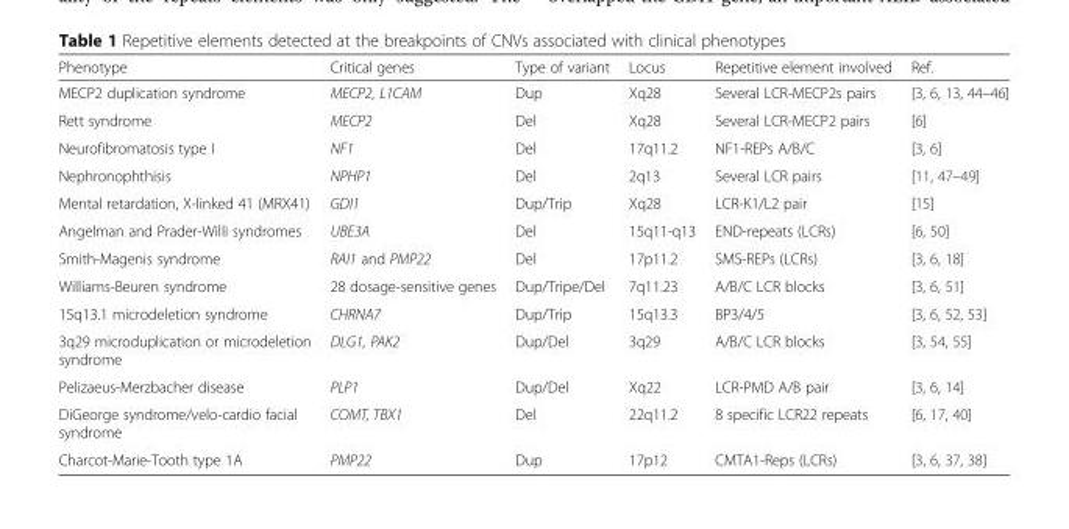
<table><thead><tr><td>Phenotype</td><td>Critical genes</td><td>Type of variant</td><td>Locus</td><td>Repetitive element involved</td><td>Ref.</td></tr></thead><tbody><tr><td>MECP2 duplication syndrome</td><td>MECP2, L1CAM</td><td>Dup</td><td>Xq28</td><td>Several LCR-MECP2s pairs</td><td>[3, 6, 13, 44–46]</td></tr><tr><td>Rett syndrome</td><td>MECP2</td><td>Del</td><td>Xq28</td><td>Several LCR-MECP2 pairs</td><td>[6]</td></tr><tr><td>Neurofibromatosis type I</td><td>NF1</td><td>Del</td><td>17q11.2</td><td>NF1-REPs A/B/C</td><td>[3, 6]</td></tr><tr><td>Nephronophthisis</td><td>NPHP1</td><td>Del</td><td>2q13</td><td>Several LCR pairs</td><td>[11, 47–49]</td></tr><tr><td>Mental retardation, X-linked 41 (MRX41)</td><td>GDI1</td><td>Dup/Trip</td><td>Xq28</td><td>LCR-K1/L2 pair</td><td>[15]</td></tr><tr><td>Angelman and Prader-Willi syndromes</td><td>UBE3A</td><td>Del</td><td>15q11-q13</td><td>END-repeats (LCRs)</td><td>[6, 50]</td></tr><tr><td>Smith-Magenis syndrome</td><td>RAI1 and PMP22</td><td>Del</td><td>17p11.2</td><td>SMS-REPs (LCRs)</td><td>[3, 6, 18]</td></tr><tr><td>Williams-Beuren syndrome</td><td>28 dosage-sensitive genes</td><td>Dup/Tripe/Del</td><td>7q11.23</td><td>A/B/C LCR blocks</td><td>[3, 6, 51]</td></tr><tr><td>15q13.1 microdeletion syndrome</td><td>CHRNA7</td><td>Dup/Trip</td><td>15q13.3</td><td>BP3/4/5</td><td>[3, 6, 52, 53]</td></tr><tr><td>3q29 microduplication or microdeletion syndrome</td><td>DLG1, PAK2</td><td>Dup/Del</td><td>3q29</td><td>A/B/C LCR blocks</td><td>[3, 54, 55]</td></tr><tr><td>Pelizaeus-Merzbacher disease</td><td>PLP1</td><td>Dup/Del</td><td>Xq22</td><td>LCR-PMD A/B pair</td><td>[3, 6, 14]</td></tr><tr><td>DiGeorge syndrome/velo-cardio facial syndrome</td><td>COMT, TBX1</td><td>Del</td><td>22q11.2</td><td>8 specific LCR22 repeats</td><td>[6, 17, 40]</td></tr><tr><td>Charcot-Marie-Tooth type 1A</td><td>PMP22</td><td>Dup</td><td>17p12</td><td>CMTA1-Reps (LCRs)</td><td>[3, 6, 37, 38]</td></tr></tbody></table>